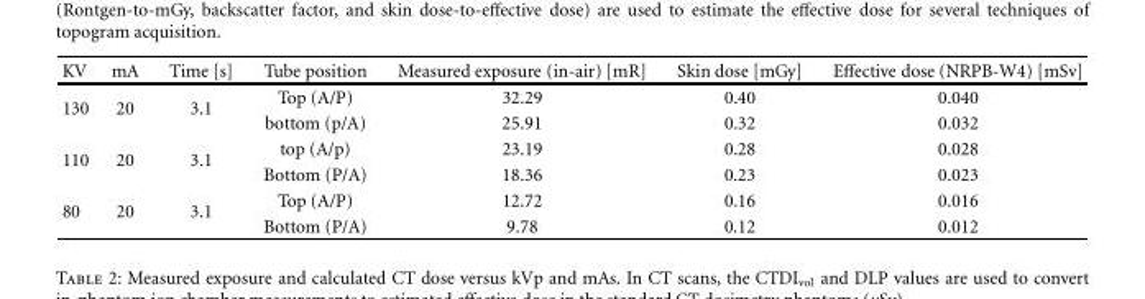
<table><thead><tr><td>KV</td><td>mA</td><td>Time [s]</td><td>Tube position</td><td>Measured exposure (in-air) [mR]</td><td>Skin dose [mGy]</td><td>Effective dose (NRPB-W4) [mSv]</td></tr></thead><tbody><tr><td rowspan="2">130</td><td rowspan="2">20</td><td rowspan="2">3.1</td><td>Top (A/P)</td><td>32.29</td><td>0.40</td><td>0.040</td></tr><tr><td>bottom (p/A)</td><td>25.91</td><td>0.32</td><td>0.032</td></tr><tr><td rowspan="2">110</td><td rowspan="2">20</td><td rowspan="2">3.1</td><td>top (A/p)</td><td>23.19</td><td>0.28</td><td>0.028</td></tr><tr><td>Bottom (P/A)</td><td>18.36</td><td>0.23</td><td>0.023</td></tr><tr><td rowspan="2">80</td><td rowspan="2">20</td><td rowspan="2">3.1</td><td>Top (A/P)</td><td>12.72</td><td>0.16</td><td>0.016</td></tr><tr><td>Bottom (P/A)</td><td>9.78</td><td>0.12</td><td>0.012</td></tr></tbody></table>